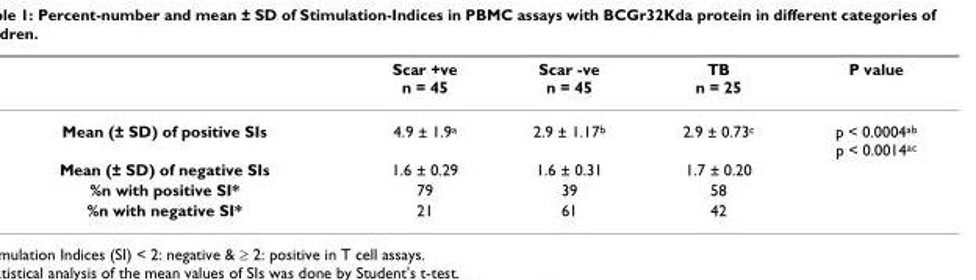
<table><thead><tr><td></td><td>Scar +ve n = 45</td><td>Scar -ve n = 45</td><td>TB n = 25</td><td>P value</td></tr></thead><tbody><tr><td>Mean (± SD) of positive SIs</td><td>4.9 ± 1.9<sup>a</sup></td><td>2.9 ± 1.17<sup>b</sup></td><td>2.9 ± 0.73<sup>c</sup></td><td>p &lt; 0.0004<sup>ab</sup> p &lt; 0.0014<sup>ac</sup></td></tr><tr><td>Mean (± SD) of negative SIs</td><td>1.6 ± 0.29</td><td>1.6 ± 0.31</td><td>1.7 ± 0.20</td><td></td></tr><tr><td>%n with positive SI*</td><td>79</td><td>39</td><td>58</td><td></td></tr><tr><td>%n with negative SI*</td><td>21</td><td>61</td><td>42</td><td></td></tr></tbody></table>